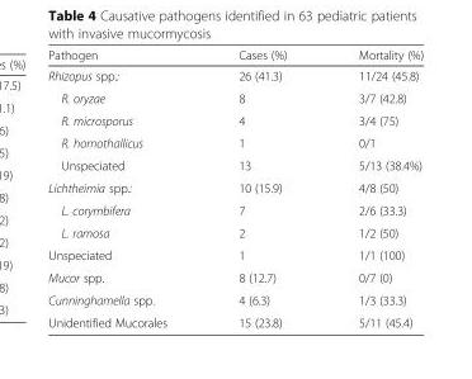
<table><thead><tr><td>Pathogen</td><td>Cases (%)</td><td>Mortality (%)</td></tr></thead><tbody><tr><td>Rhizopus spp.:</td><td>26 (41.3)</td><td>11/24 (45.8)</td></tr><tr><td>R. oryzae</td><td>8</td><td>3/7 (42.8)</td></tr><tr><td>R. microsporus</td><td>4</td><td>3/4 (75)</td></tr><tr><td>R. homothallicus</td><td>1</td><td>0/1</td></tr><tr><td>Unspeciated</td><td>13</td><td>5/13 (38.4%)</td></tr><tr><td>Lichtheimia spp.:</td><td>10 (15.9)</td><td>4/8 (50)</td></tr><tr><td>L. corymbifera</td><td>7</td><td>2/6 (33.3)</td></tr><tr><td>L. ramosa</td><td>2</td><td>1/2 (50)</td></tr><tr><td>Unspeciated</td><td>1</td><td>1/1 (100)</td></tr><tr><td>Mucor spp.</td><td>8 (12.7)</td><td>0/7 (0)</td></tr><tr><td>Cunninghamella spp.</td><td>4 (6.3)</td><td>1/3 (33.3)</td></tr><tr><td>Unidentified Mucorales</td><td>15 (23.8)</td><td>5/11 (45.4)</td></tr></tbody></table>